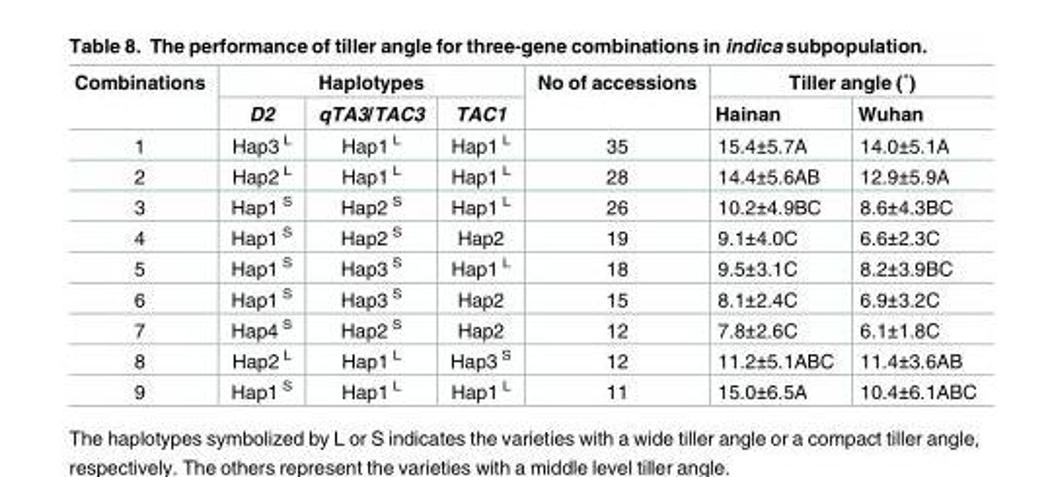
<table><thead><tr><td rowspan="2">Combinations</td><td colspan="3">Haplotypes</td><td rowspan="2">No of accessions</td><td colspan="2">Tiller angle (˚)</td></tr><tr><td>D2</td><td>qTA3/TAC3</td><td>TAC1</td><td>Hainan</td><td>Wuhan</td></tr></thead><tbody><tr><td>1</td><td>Hap3 <sup>L</sup></td><td>Hap1 <sup>L</sup></td><td>Hap1 <sup>L</sup></td><td>35</td><td>15.4±5.7A</td><td>14.0±5.1A</td></tr><tr><td>2</td><td>Hap2 <sup>L</sup></td><td>Hap1 <sup>L</sup></td><td>Hap1 <sup>L</sup></td><td>28</td><td>14.4±5.6AB</td><td>12.9±5.9A</td></tr><tr><td>3</td><td>Hap1 <sup>S</sup></td><td>Hap2 <sup>S</sup></td><td>Hap1 <sup>L</sup></td><td>26</td><td>10.2±4.9BC</td><td>8.6±4.3BC</td></tr><tr><td>4</td><td>Hap1 <sup>S</sup></td><td>Hap2 <sup>S</sup></td><td>Hap2</td><td>19</td><td>9.1±4.0C</td><td>6.6±2.3C</td></tr><tr><td>5</td><td>Hap1 <sup>S</sup></td><td>Hap3 <sup>S</sup></td><td>Hap1 <sup>L</sup></td><td>18</td><td>9.5±3.1C</td><td>8.2±3.9BC</td></tr><tr><td>6</td><td>Hap1 <sup>S</sup></td><td>Hap3 <sup>S</sup></td><td>Hap2</td><td>15</td><td>8.1±2.4C</td><td>6.9±3.2C</td></tr><tr><td>7</td><td>Hap4 <sup>S</sup></td><td>Hap2 <sup>S</sup></td><td>Hap2</td><td>12</td><td>7.8±2.6C</td><td>6.1±1.8C</td></tr><tr><td>8</td><td>Hap2 <sup>L</sup></td><td>Hap1 <sup>L</sup></td><td>Hap3 <sup>S</sup></td><td>12</td><td>11.2±5.1ABC</td><td>11.4±3.6AB</td></tr><tr><td>9</td><td>Hap1 <sup>S</sup></td><td>Hap1 <sup>L</sup></td><td>Hap1 <sup>L</sup></td><td>11</td><td>15.0±6.5A</td><td>10.4±6.1ABC</td></tr></tbody></table>